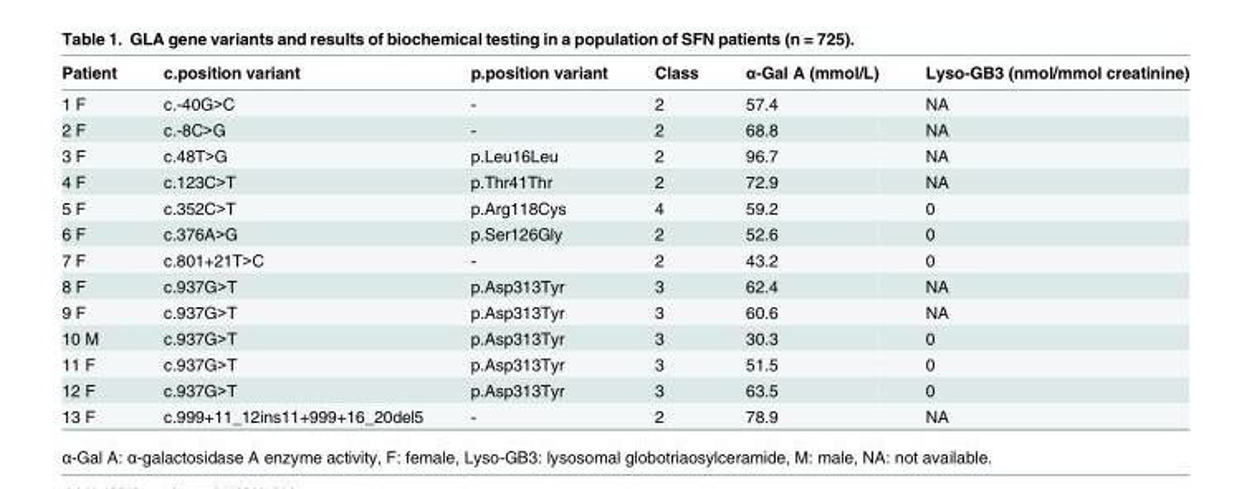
<table><thead><tr><td>Patient</td><td>c.position variant</td><td>p.position variant</td><td>Class</td><td>α-Gal A (mmol/L)</td><td>Lyso-GB3 (nmol/mmol creatinine)</td></tr></thead><tbody><tr><td>1 F</td><td>c.-40G&gt;C</td><td>-</td><td>2</td><td>57.4</td><td>NA</td></tr><tr><td>2 F</td><td>c.-8C&gt;G</td><td>-</td><td>2</td><td>68.8</td><td>NA</td></tr><tr><td>3 F</td><td>c.48T&gt;G</td><td>p.Leu16Leu</td><td>2</td><td>96.7</td><td>NA</td></tr><tr><td>4 F</td><td>c.123C&gt;T</td><td>p.Thr41Thr</td><td>2</td><td>72.9</td><td>NA</td></tr><tr><td>5 F</td><td>c.352C&gt;T</td><td>p.Arg118Cys</td><td>4</td><td>59.2</td><td>0</td></tr><tr><td>6 F</td><td>c.376A&gt;G</td><td>p.Ser126Gly</td><td>2</td><td>52.6</td><td>0</td></tr><tr><td>7 F</td><td>c.801+21T&gt;C</td><td>-</td><td>2</td><td>43.2</td><td>0</td></tr><tr><td>8 F</td><td>c.937G&gt;T</td><td>p.Asp313Tyr</td><td>3</td><td>62.4</td><td>NA</td></tr><tr><td>9 F</td><td>c.937G&gt;T</td><td>p.Asp313Tyr</td><td>3</td><td>60.6</td><td>NA</td></tr><tr><td>10 M</td><td>c.937G&gt;T</td><td>p.Asp313Tyr</td><td>3</td><td>30.3</td><td>0</td></tr><tr><td>11 F</td><td>c.937G&gt;T</td><td>p.Asp313Tyr</td><td>3</td><td>51.5</td><td>0</td></tr><tr><td>12 F</td><td>c.937G&gt;T</td><td>p.Asp313Tyr</td><td>3</td><td>63.5</td><td>0</td></tr><tr><td>13 F</td><td>c.999+11_12ins11+999+16_20del5</td><td>-</td><td>2</td><td>78.9</td><td>NA</td></tr></tbody></table>